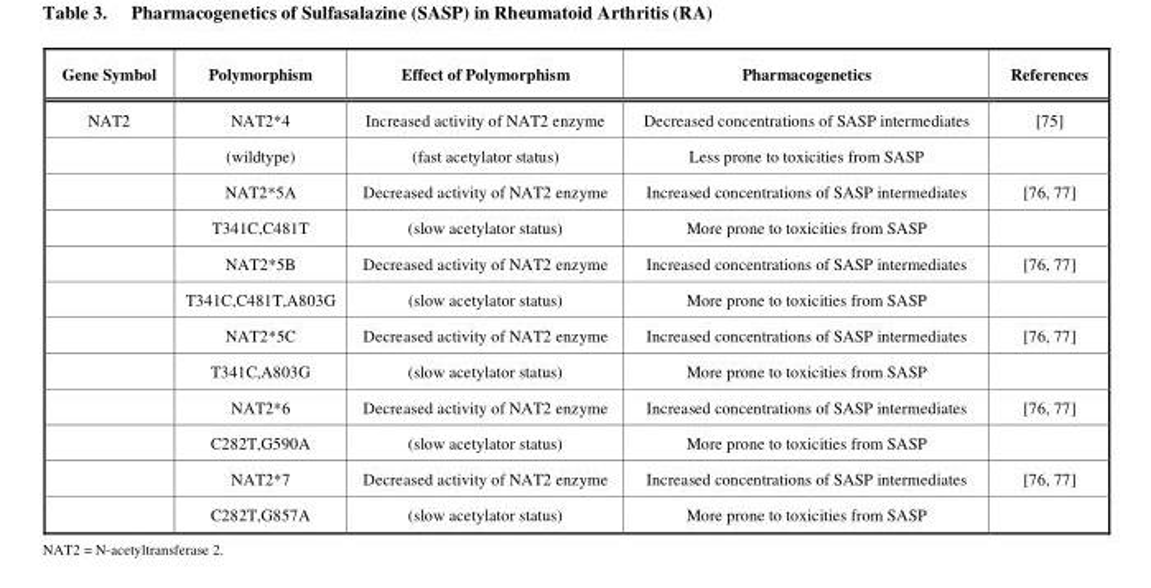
<table><thead><tr><td>Gene Symbol</td><td>Polymorphism</td><td>Effect of Polymorphism</td><td>Pharmacogenetics</td><td>References</td></tr></thead><tbody><tr><td rowspan="12">NAT2</td><td>NAT2*4</td><td>Increased activity of NAT2 enzyme</td><td>Decreased concentrations of SASP intermediates</td><td>[75]</td></tr><tr><td>(wildtype)</td><td>(fast acetylator status)</td><td>Less prone to toxicities from SASP</td><td></td></tr><tr><td>NAT2*5A</td><td>Decreased activity of NAT2 enzyme</td><td>Increased concentrations of SASP intermediates</td><td>[76, 77]</td></tr><tr><td>T341C,C481T</td><td>(slow acetylator status)</td><td>More prone to toxicities from SASP</td><td></td></tr><tr><td>NAT2*5B</td><td>Decreased activity of NAT2 enzyme</td><td>Increased concentrations of SASP intermediates</td><td>[76, 77]</td></tr><tr><td>T341C,C481T,A803G</td><td>(slow acetylator status)</td><td>More prone to toxicities from SASP</td><td></td></tr><tr><td>NAT2*5C</td><td>Decreased activity of NAT2 enzyme</td><td>Increased concentrations of SASP intermediates</td><td>[76, 77]</td></tr><tr><td>T341C,A803G</td><td>(slow acetylator status)</td><td>More prone to toxicities from SASP</td><td></td></tr><tr><td>NAT2*6</td><td>Decreased activity of NAT2 enzyme</td><td>Increased concentrations of SASP intermediates</td><td>[76, 77]</td></tr><tr><td>C282T,G590A</td><td>(slow acetylator status)</td><td>More prone to toxicities from SASP</td><td></td></tr><tr><td>NAT2*7</td><td>Decreased activity of NAT2 enzyme</td><td>Increased concentrations of SASP intermediates</td><td>[76, 77]</td></tr><tr><td>C282T,G857A</td><td>(slow acetylator status)</td><td>More prone to toxicities from SASP</td><td></td></tr></tbody></table>